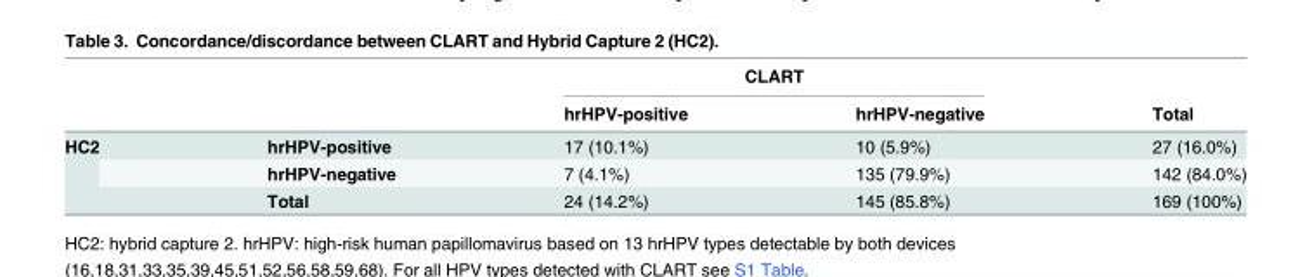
<table><thead><tr><td rowspan="2"></td><td rowspan="2"></td><td colspan="2">CLART</td><td rowspan="2">Total</td></tr><tr><td>hrHPV-positive</td><td>hrHPV-negative</td></tr></thead><tbody><tr><td rowspan="3">HC2</td><td>hrHPV-positive</td><td>17 (10.1%)</td><td>10 (5.9%)</td><td>27 (16.0%)</td></tr><tr><td>hrHPV-negative</td><td>7 (4.1%)</td><td>135 (79.9%)</td><td>142 (84.0%)</td></tr><tr><td>Total</td><td>24 (14.2%)</td><td>145 (85.8%)</td><td>169 (100%)</td></tr></tbody></table>